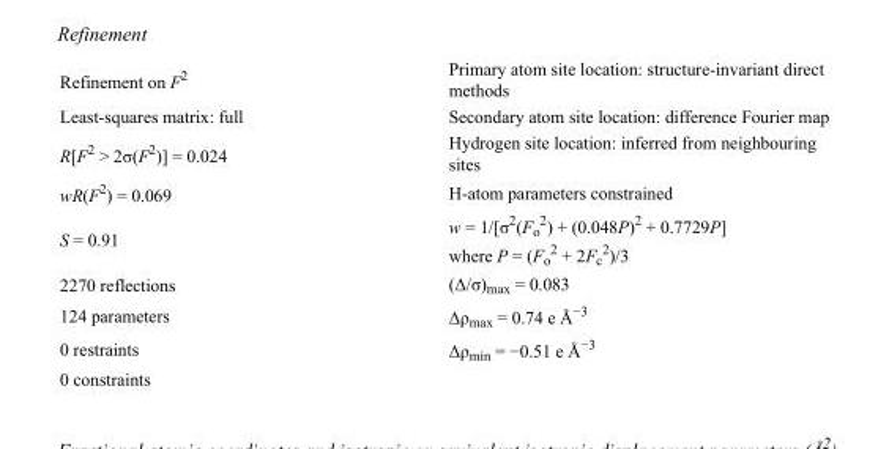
<table><tbody><tr><td>Refinement on F<sup>2</sup></td><td>Primary atom site location: structure-invariant direct methods</td></tr><tr><td>Least-squares matrix: full</td><td>Secondary atom site location: difference Fourier map</td></tr><tr><td>R[F<sup>2</sup> &gt; 2σ(F<sup>2</sup>)] = 0.024</td><td>Hydrogen site location: inferred from neighbouring sites</td></tr><tr><td>wR(F<sup>2</sup>) = 0.069</td><td>H-atom parameters constrained</td></tr><tr><td>S = 0.91</td><td>w = 1/[σ<sup>2</sup>(F<sub>o</sub> <sup>2</sup>) + (0.048P)<sup>2</sup> + 0.7729P] where P = (F<sub>o</sub> <sup>2</sup> + 2F<sub>c</sub> <sup>2</sup>)/3</td></tr><tr><td>2270 reflections</td><td>(Δ/σ)<sub>max</sub> = 0.083</td></tr><tr><td>124 parameters</td><td>Δρ<sub>max</sub> = 0.74 e Å<sup>−3</sup></td></tr><tr><td>0 restraints</td><td>Δρ<sub>min</sub> = −0.51 e Å<sup>−3</sup></td></tr><tr><td>0 constraints</td><td></td></tr></tbody></table>